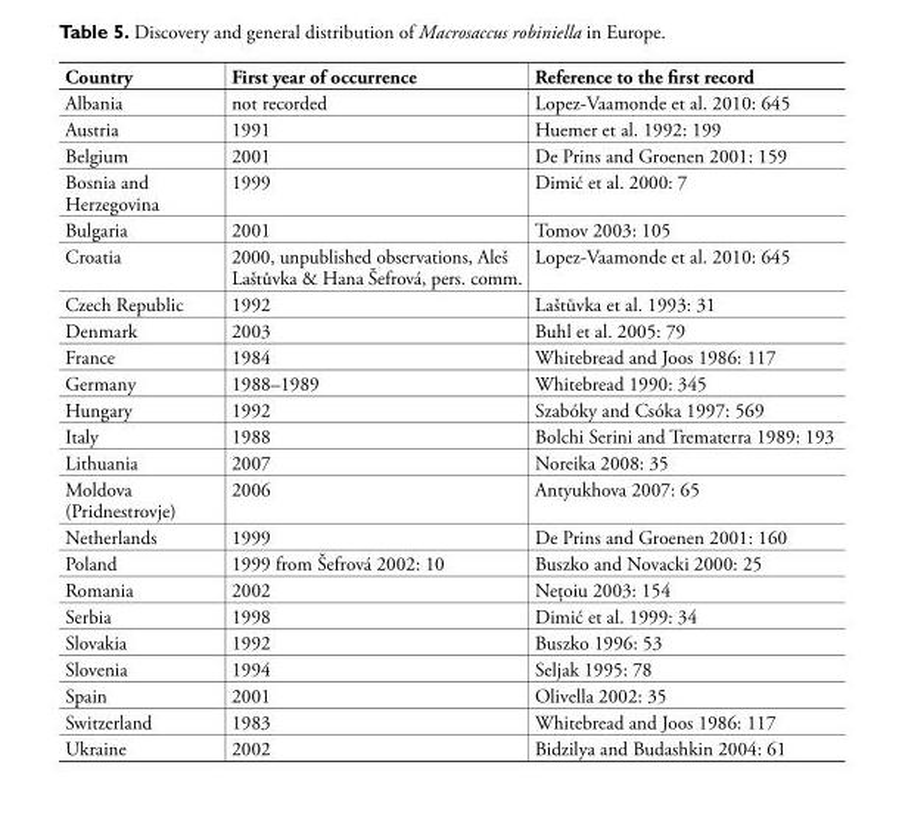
<table><thead><tr><td>Country</td><td>First year of occurrence</td><td>Reference to the first record</td></tr></thead><tbody><tr><td>Albania</td><td>not recorded</td><td>Lopez-Vaamonde et al. 2010: 645</td></tr><tr><td>Austria</td><td>1991</td><td>Huemer et al. 1992: 199</td></tr><tr><td>Belgium</td><td>2001</td><td>De Prins and Groenen 2001: 159</td></tr><tr><td>Bosnia and Herzegovina</td><td>1999</td><td>Dimić et al. 2000: 7</td></tr><tr><td>Bulgaria</td><td>2001</td><td>Tomov 2003: 105</td></tr><tr><td>Croatia</td><td>2000, unpublished observations, Aleš Laštůvka &amp; Hana Šefrová, pers. comm.</td><td>Lopez-Vaamonde et al. 2010: 645</td></tr><tr><td>Czech Republic</td><td>1992</td><td>Laštůvka et al. 1993: 31</td></tr><tr><td>Denmark</td><td>2003</td><td>Buhl et al. 2005: 79</td></tr><tr><td>France</td><td>1984</td><td>Whitebread and Joos 1986: 117</td></tr><tr><td>Germany</td><td>1988–1989</td><td>Whitebread 1990: 345</td></tr><tr><td>Hungary</td><td>1992</td><td>Szabóky and Csóka 1997: 569</td></tr><tr><td>Italy</td><td>1988</td><td>Bolchi Serini and Trematerra 1989: 193</td></tr><tr><td>Lithuania</td><td>2007</td><td>Noreika 2008: 35</td></tr><tr><td>Moldova (Pridnestrovje)</td><td>2006</td><td>Antyukhova 2007: 65</td></tr><tr><td>Netherlands</td><td>1999</td><td>De Prins and Groenen 2001: 160</td></tr><tr><td>Poland</td><td>1999 from Šefrová 2002: 10</td><td>Buszko and Novacki 2000: 25</td></tr><tr><td>Romania</td><td>2002</td><td>Neţoiu 2003: 154</td></tr><tr><td>Serbia</td><td>1998</td><td>Dimić et al. 1999: 34</td></tr><tr><td>Slovakia</td><td>1992</td><td>Buszko 1996: 53</td></tr><tr><td>Slovenia</td><td>1994</td><td>Seljak 1995: 78</td></tr><tr><td>Spain</td><td>2001</td><td>Olivella 2002: 35</td></tr><tr><td>Switzerland</td><td>1983</td><td>Whitebread and Joos 1986: 117</td></tr><tr><td>Ukraine</td><td>2002</td><td>Bidzilya and Budashkin 2004: 61</td></tr></tbody></table>